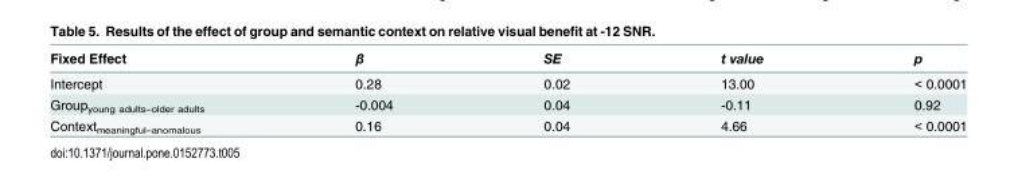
<table><thead><tr><td>Fixed Effect</td><td>β</td><td>SE</td><td>t value</td><td>p</td></tr></thead><tbody><tr><td>Intercept</td><td>0.28</td><td>0.02</td><td>13.00</td><td>&lt; 0.0001</td></tr><tr><td>Group<sub>young adults–older adults</sub></td><td>-0.004</td><td>0.04</td><td>-0.11</td><td>0.92</td></tr><tr><td>Context<sub>meaningful–anomalous</sub></td><td>0.16</td><td>0.04</td><td>4.66</td><td>&lt; 0.0001</td></tr></tbody></table>